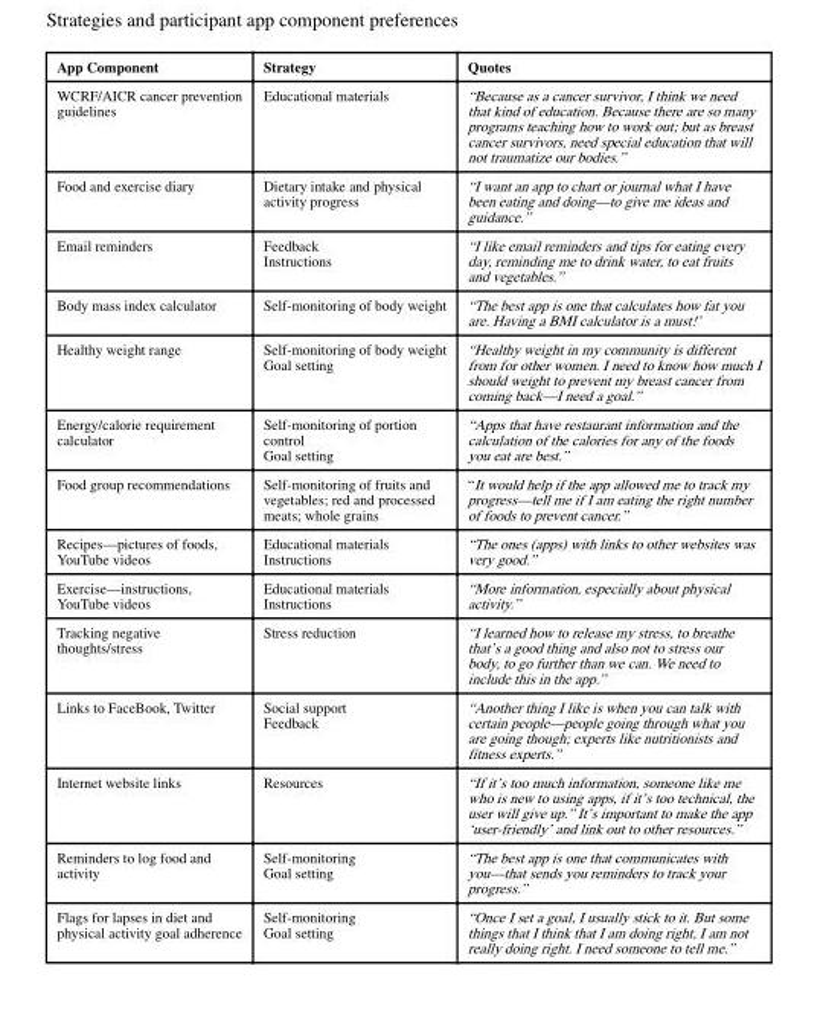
<table><thead><tr><td>App Component</td><td>Strategy</td><td>Quotes</td></tr></thead><tbody><tr><td>WCRF/AICR cancer prevention guidelines</td><td>Educational materials</td><td>“Because as a cancer survivor, I think we need that kind of education. Because there are so many programs teaching how to work out; but as breast cancer survivors, need special education that will not traumatize our bodies.”</td></tr><tr><td>Food and exercise diary</td><td>Dietary intake and physical activity progress</td><td>“I want an app to chart or journal what I have been eating and doing—to give me ideas and guidance.”</td></tr><tr><td>Email reminders</td><td>Feedback Instructions</td><td>“I like email reminders and tips for eating every day, reminding me to drink water, to eat fruits and vegetables.”</td></tr><tr><td>Body mass index calculator</td><td>Self-monitoring of body weight</td><td>“The best app is one that calculates how fat you are. Having a BMI calculator is a must!’</td></tr><tr><td>Healthy weight range</td><td>Self-monitoring of body weight Goal setting</td><td>“Healthy weight in my community is different from for other women. I need to know how much I should weight to prevent my breast cancer from coming back—I need a goal.”</td></tr><tr><td>Energy/calorie requirement calculator</td><td>Self-monitoring of portion control Goal setting</td><td>“Apps that have restaurant information and the calculation of the calories for any of the foods you eat are best.”</td></tr><tr><td>Food group recommendations</td><td>Self-monitoring of fruits and vegetables; red and processed meats; whole grains</td><td>“It would help if the app allowed me to track my progress—tell me if I am eating the right number of foods to prevent cancer.”</td></tr><tr><td>Recipes—pictures of foods, YouTube videos</td><td>Educational materials Instructions</td><td>“The ones (apps) with links to other websites was very good.”</td></tr><tr><td>Exercise—instructions, YouTube videos</td><td>Educational materials Instructions</td><td>“More information, especially about physical activity.”</td></tr><tr><td>Tracking negative thoughts/stress</td><td>Stress reduction</td><td>“I learned how to release my stress, to breathe that’s a good thing and also not to stress our body, to go further than we can. We need to include this in the app.”</td></tr><tr><td>Links to FaceBook, Twitter</td><td>Social support Feedback</td><td>“Another thing I like is when you can talk with certain people—people going through what you are going though; experts like nutritionists and fitness experts.”</td></tr><tr><td>Internet website links</td><td>Resources</td><td>“If it’s too much information, someone like me who is new to using apps, if it’s too technical, the user will give up.” It’s important to make the app ‘user-friendly’ and link out to other resources.”</td></tr><tr><td>Reminders to log food and activity</td><td>Self-monitoring Goal setting</td><td>“The best app is one that communicates with you—that sends you reminders to track your progress.”</td></tr><tr><td>Flags for lapses in diet and physical activity goal adherence</td><td>Self-monitoring Goal setting</td><td>“Once I set a goal, I usually stick to it. But some things that I think that I am doing right, I am not really doing right. I need someone to tell me.”</td></tr></tbody></table>